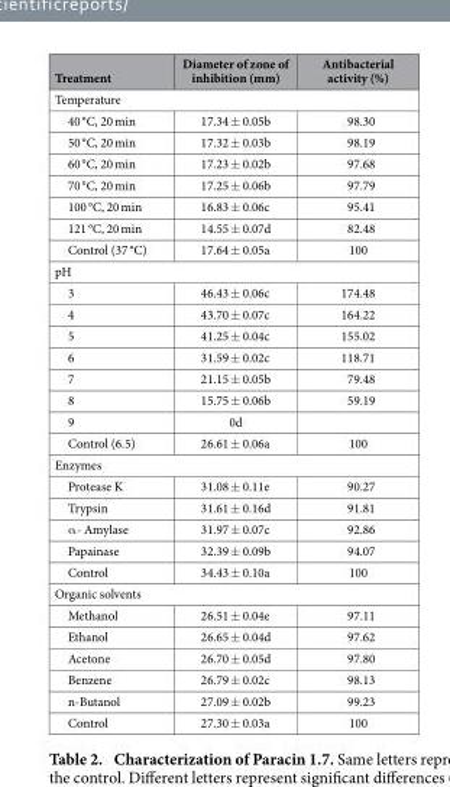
<table><thead><tr><td>Treatment</td><td>Diameter of zone of inhibition (mm)</td><td>Antibacterial activity (%)</td></tr></thead><tbody><tr><td colspan="3">Temperature</td></tr><tr><td>40 °C, 20 min</td><td>17.34 ± 0.05b</td><td>98.30</td></tr><tr><td>50 °C, 20 min</td><td>17.32 ± 0.03b</td><td>98.19</td></tr><tr><td>60 °C, 20 min</td><td>17.23 ± 0.02b</td><td>97.68</td></tr><tr><td>70 °C, 20 min</td><td>17.25 ± 0.06b</td><td>97.79</td></tr><tr><td>100 °C, 20 min</td><td>16.83 ± 0.06c</td><td>95.41</td></tr><tr><td>121 °C, 20 min</td><td>14.55 ± 0.07d</td><td>82.48</td></tr><tr><td>Control (37 °C)</td><td>17.64 ± 0.05a</td><td>100</td></tr><tr><td colspan="3">pH</td></tr><tr><td>3</td><td>46.43 ± 0.06c</td><td>174.48</td></tr><tr><td>4</td><td>43.70 ± 0.07c</td><td>164.22</td></tr><tr><td>5</td><td>41.25 ± 0.04c</td><td>155.02</td></tr><tr><td>6</td><td>31.59 ± 0.02c</td><td>118.71</td></tr><tr><td>7</td><td>21.15 ± 0.05b</td><td>79.48</td></tr><tr><td>8</td><td>15.75 ± 0.06b</td><td>59.19</td></tr><tr><td>9</td><td>0d</td><td></td></tr><tr><td>Control (6.5)</td><td>26.61 ± 0.06a</td><td>100</td></tr><tr><td colspan="3">Enzymes</td></tr><tr><td>Protease K</td><td>31.08 ± 0.11e</td><td>90.27</td></tr><tr><td>Trypsin</td><td>31.61 ± 0.16d</td><td>91.81</td></tr><tr><td>α - Amylase</td><td>31.97 ± 0.07c</td><td>92.86</td></tr><tr><td>Papainase</td><td>32.39 ± 0.09b</td><td>94.07</td></tr><tr><td>Control</td><td>34.43 ± 0.10a</td><td>100</td></tr><tr><td colspan="3">Organic solvents</td></tr><tr><td>Methanol</td><td>26.51 ± 0.04e</td><td>97.11</td></tr><tr><td>Ethanol</td><td>26.65 ± 0.04d</td><td>97.62</td></tr><tr><td>Acetone</td><td>26.70 ± 0.05d</td><td>97.80</td></tr><tr><td>Benzene</td><td>26.79 ± 0.02c</td><td>98.13</td></tr><tr><td>n-Butanol</td><td>27.09 ± 0.02b</td><td>99.23</td></tr><tr><td>Control</td><td>27.30 ± 0.03a</td><td>100</td></tr></tbody></table>